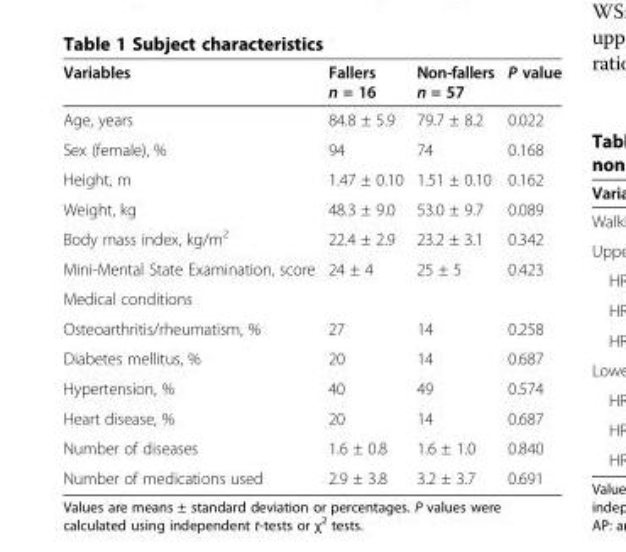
<table><thead><tr><td>Variables</td><td>Fallers n = 16</td><td>Non-fallers n = 57</td><td>P value</td></tr></thead><tbody><tr><td>Age, years</td><td>84.8 ± 5.9</td><td>79.7 ± 8.2</td><td>0.022</td></tr><tr><td>Sex (female), %</td><td>94</td><td>74</td><td>0.168</td></tr><tr><td>Height, m</td><td>1.47 ± 0.10</td><td>1.51 ± 0.10</td><td>0.162</td></tr><tr><td>Weight, kg</td><td>48.3 ± 9.0</td><td>53.0 ± 9.7</td><td>0.089</td></tr><tr><td>Body mass index, kg/m<sup>2</sup></td><td>22.4 ± 2.9</td><td>23.2 ± 3.1</td><td>0.342</td></tr><tr><td>Mini-Mental State Examination, score</td><td>24 ± 4</td><td>25 ± 5</td><td>0.423</td></tr><tr><td colspan="4">Medical conditions</td></tr><tr><td>Osteoarthritis/rheumatism, %</td><td>27</td><td>14</td><td>0.258</td></tr><tr><td>Diabetes mellitus, %</td><td>20</td><td>14</td><td>0.687</td></tr><tr><td>Hypertension, %</td><td>40</td><td>49</td><td>0.574</td></tr><tr><td>Heart disease, %</td><td>20</td><td>14</td><td>0.687</td></tr><tr><td>Number of diseases</td><td>1.6 ± 0.8</td><td>1.6 ± 1.0</td><td>0.840</td></tr><tr><td>Number of medications used</td><td>2.9 ± 3.8</td><td>3.2 ± 3.7</td><td>0.691</td></tr></tbody></table>